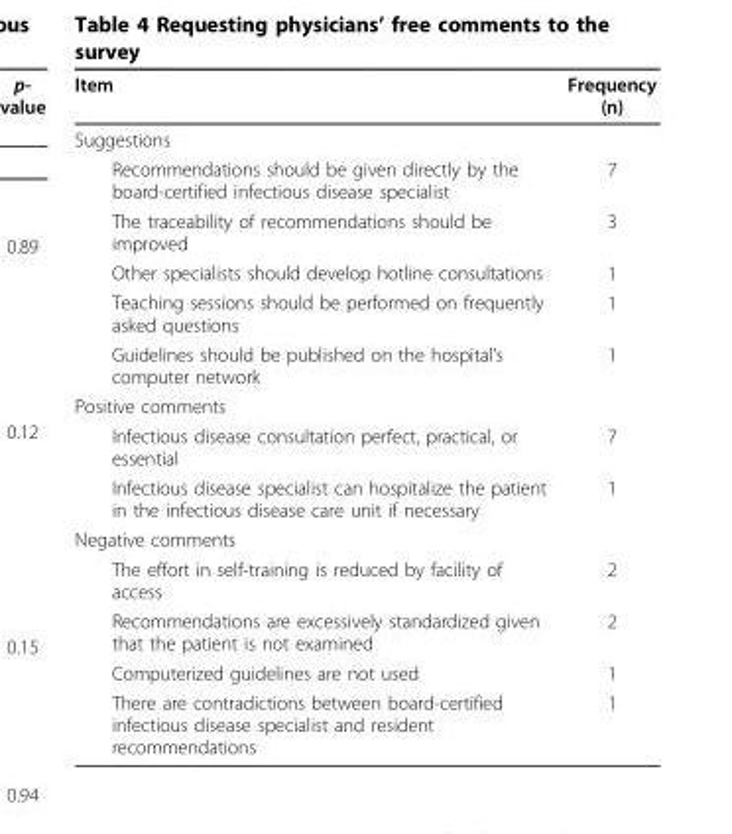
<table><thead><tr><td>Item</td><td>Frequency (n)</td></tr></thead><tbody><tr><td colspan="2">Suggestions</td></tr><tr><td>Recommendations should be given directly by the board-certified infectious disease specialist</td><td>7</td></tr><tr><td>The traceability of recommendations should be improved</td><td>3</td></tr><tr><td>Other specialists should develop hotline consultations</td><td>1</td></tr><tr><td>Teaching sessions should be performed on frequently asked questions</td><td>1</td></tr><tr><td>Guidelines should be published on the hospital’s computer network</td><td>1</td></tr><tr><td colspan="2">Positive comments</td></tr><tr><td>Infectious disease consultation perfect, practical, or essential</td><td>7</td></tr><tr><td>Infectious disease specialist can hospitalize the patient in the infectious disease care unit if necessary</td><td>1</td></tr><tr><td colspan="2">Negative comments</td></tr><tr><td>The effort in self-training is reduced by facility of access</td><td>2</td></tr><tr><td>Recommendations are excessively standardized given that the patient is not examined</td><td>2</td></tr><tr><td>Computerized guidelines are not used</td><td>1</td></tr><tr><td>There are contradictions between board-certified infectious disease specialist and resident recommendations</td><td>1</td></tr></tbody></table>